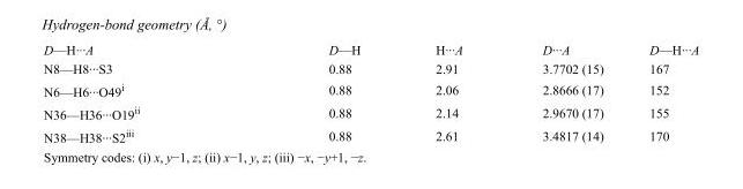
<table><tbody><tr><td>D—H···A</td><td>D—H</td><td>H···A</td><td>D···A</td><td>D—H···A</td></tr><tr><td>N8—H8···S3</td><td>0.88</td><td>2.91</td><td>3.7702 (15)</td><td>167</td></tr><tr><td>N6—H6···O49<sup>i</sup></td><td>0.88</td><td>2.06</td><td>2.8666 (17)</td><td>152</td></tr><tr><td>N36—H36···O19<sup>ii</sup></td><td>0.88</td><td>2.14</td><td>2.9670 (17)</td><td>155</td></tr><tr><td>N38—H38···S2<sup>iii</sup></td><td>0.88</td><td>2.61</td><td>3.4817 (14)</td><td>170</td></tr></tbody></table>